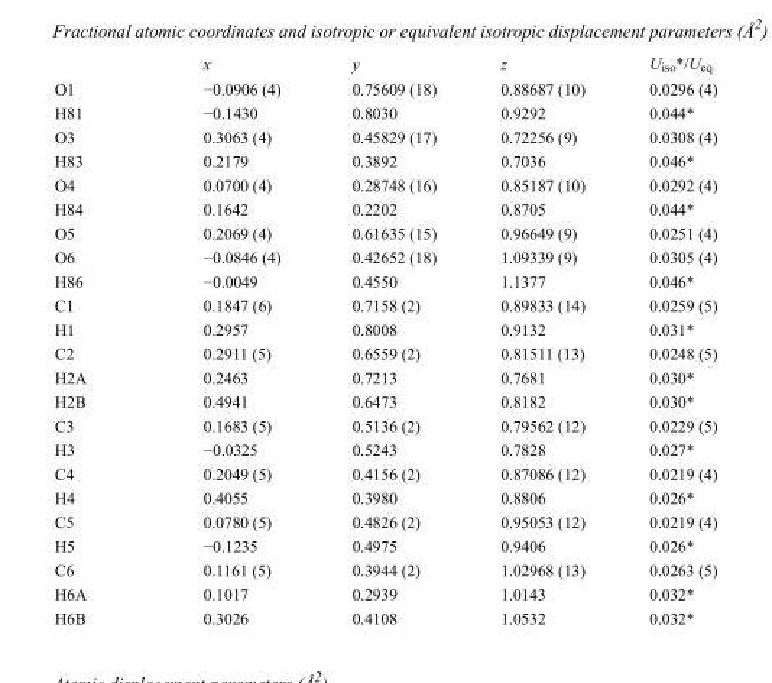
<table><thead><tr><td></td><td>x</td><td>y</td><td>z</td><td>U<sub>iso</sub>*/U<sub>eq</sub></td></tr></thead><tbody><tr><td>O1</td><td>−0.0906 (4)</td><td>0.75609 (18)</td><td>0.88687 (10)</td><td>0.0296 (4)</td></tr><tr><td>H81</td><td>−0.1430</td><td>0.8030</td><td>0.9292</td><td>0.044*</td></tr><tr><td>O3</td><td>0.3063 (4)</td><td>0.45829 (17)</td><td>0.72256 (9)</td><td>0.0308 (4)</td></tr><tr><td>H83</td><td>0.2179</td><td>0.3892</td><td>0.7036</td><td>0.046*</td></tr><tr><td>O4</td><td>0.0700 (4)</td><td>0.28748 (16)</td><td>0.85187 (10)</td><td>0.0292 (4)</td></tr><tr><td>H84</td><td>0.1642</td><td>0.2202</td><td>0.8705</td><td>0.044*</td></tr><tr><td>O5</td><td>0.2069 (4)</td><td>0.61635 (15)</td><td>0.96649 (9)</td><td>0.0251 (4)</td></tr><tr><td>O6</td><td>−0.0846 (4)</td><td>0.42652 (18)</td><td>1.09339 (9)</td><td>0.0305 (4)</td></tr><tr><td>H86</td><td>−0.0049</td><td>0.4550</td><td>1.1377</td><td>0.046*</td></tr><tr><td>C1</td><td>0.1847 (6)</td><td>0.7158 (2)</td><td>0.89833 (14)</td><td>0.0259 (5)</td></tr><tr><td>H1</td><td>0.2957</td><td>0.8008</td><td>0.9132</td><td>0.031*</td></tr><tr><td>C2</td><td>0.2911 (5)</td><td>0.6559 (2)</td><td>0.81511 (13)</td><td>0.0248 (5)</td></tr><tr><td>H2A</td><td>0.2463</td><td>0.7213</td><td>0.7681</td><td>0.030*</td></tr><tr><td>H2B</td><td>0.4941</td><td>0.6473</td><td>0.8182</td><td>0.030*</td></tr><tr><td>C3</td><td>0.1683 (5)</td><td>0.5136 (2)</td><td>0.79562 (12)</td><td>0.0229 (5)</td></tr><tr><td>H3</td><td>−0.0325</td><td>0.5243</td><td>0.7828</td><td>0.027*</td></tr><tr><td>C4</td><td>0.2049 (5)</td><td>0.4156 (2)</td><td>0.87086 (12)</td><td>0.0219 (4)</td></tr><tr><td>H4</td><td>0.4055</td><td>0.3980</td><td>0.8806</td><td>0.026*</td></tr><tr><td>C5</td><td>0.0780 (5)</td><td>0.4826 (2)</td><td>0.95053 (12)</td><td>0.0219 (4)</td></tr><tr><td>H5</td><td>−0.1235</td><td>0.4975</td><td>0.9406</td><td>0.026*</td></tr><tr><td>C6</td><td>0.1161 (5)</td><td>0.3944 (2)</td><td>1.02968 (13)</td><td>0.0263 (5)</td></tr><tr><td>H6A</td><td>0.1017</td><td>0.2939</td><td>1.0143</td><td>0.032*</td></tr><tr><td>H6B</td><td>0.3026</td><td>0.4108</td><td>1.0532</td><td>0.032*</td></tr></tbody></table>